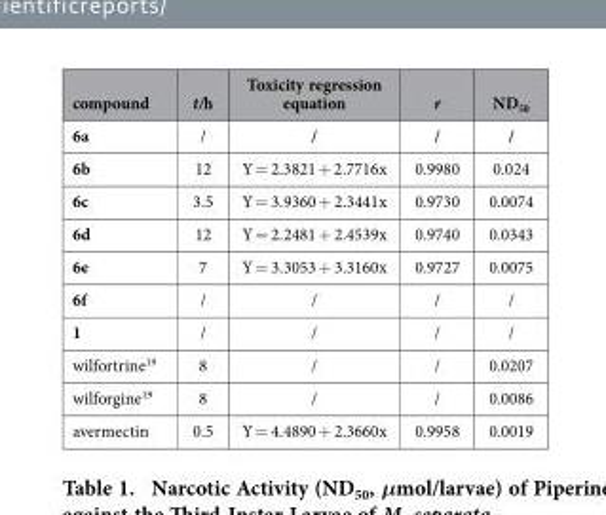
<table><thead><tr><td>compound</td><td>t/h</td><td>Toxicity regression equation</td><td>r</td><td>ND<sub>50</sub></td></tr></thead><tbody><tr><td>6a</td><td>/</td><td>/</td><td>/</td><td>/</td></tr><tr><td>6b</td><td>12</td><td>Y = 2.3821 + 2.7716x</td><td>0.9980</td><td>0.024</td></tr><tr><td>6c</td><td>3.5</td><td>Y = 3.9360 + 2.3441x</td><td>0.9730</td><td>0.0074</td></tr><tr><td>6d</td><td>12</td><td>Y = 2.2481 + 2.4539x</td><td>0.9740</td><td>0.0343</td></tr><tr><td>6e</td><td>7</td><td>Y = 3.3053 + 3.3160x</td><td>0.9727</td><td>0.0075</td></tr><tr><td>6f</td><td>/</td><td>/</td><td>/</td><td>/</td></tr><tr><td>1</td><td>/</td><td>/</td><td>/</td><td>/</td></tr><tr><td>wilfortrine<sup>19</sup></td><td>8</td><td>/</td><td>/</td><td>0.0207</td></tr><tr><td>wilforgine<sup>19</sup></td><td>8</td><td>/</td><td>/</td><td>0.0086</td></tr><tr><td>avermectin</td><td>0.5</td><td>Y = 4.4890 + 2.3660x</td><td>0.9958</td><td>0.0019</td></tr></tbody></table>